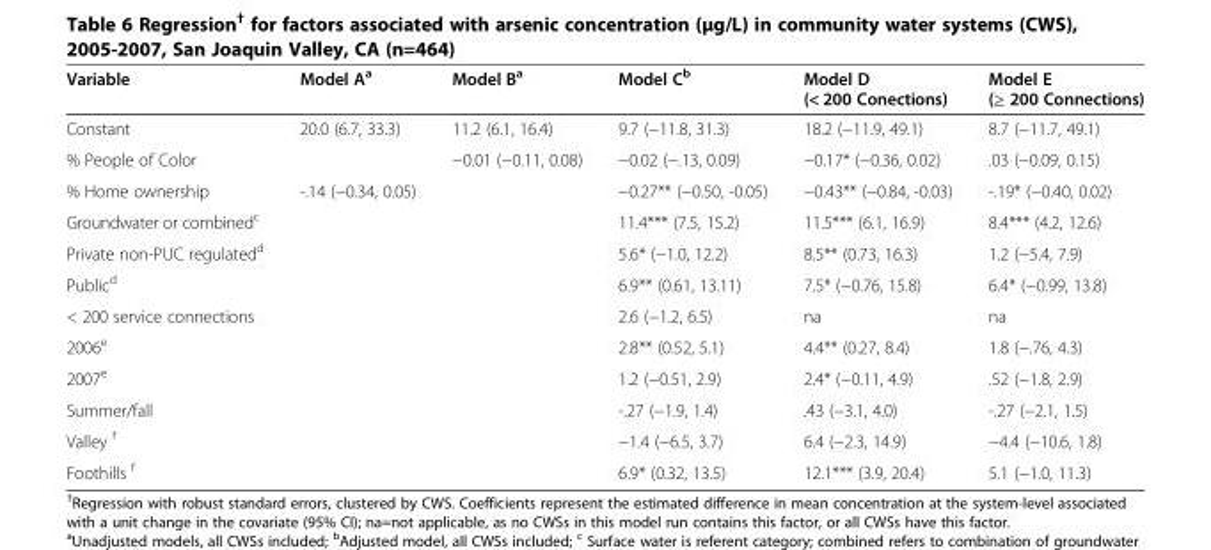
<table><thead><tr><td>Variable</td><td>Model A<sup>a</sup></td><td>Model B<sup>a</sup></td><td>Model C<sup>b</sup></td><td>Model D (&lt; 200 Conections)</td><td>Model E (≥ 200 Connections)</td></tr></thead><tbody><tr><td>Constant</td><td>20.0 (6.7, 33.3)</td><td>11.2 (6.1, 16.4)</td><td>9.7 (−11.8, 31.3)</td><td>18.2 (−11.9, 49.1)</td><td>8.7 (−11.7, 49.1)</td></tr><tr><td>% People of Color</td><td></td><td>−0.01 (−0.11, 0.08)</td><td>−0.02 (−.13, 0.09)</td><td>−0.17* (−0.36, 0.02)</td><td>.03 (−0.09, 0.15)</td></tr><tr><td>% Home ownership</td><td>-.14 (−0.34, 0.05)</td><td></td><td>−0.27** (−0.50, -0.05)</td><td>−0.43** (−0.84, -0.03)</td><td>-.19* (−0.40, 0.02)</td></tr><tr><td>Groundwater or combined<sup>c</sup></td><td></td><td></td><td>11.4*** (7.5, 15.2)</td><td>11.5*** (6.1, 16.9)</td><td>8.4*** (4.2, 12.6)</td></tr><tr><td>Private non-PUC regulated<sup>d</sup></td><td></td><td></td><td>5.6* (−1.0, 12.2)</td><td>8.5** (0.73, 16.3)</td><td>1.2 (−5.4, 7.9)</td></tr><tr><td>Public<sup>d</sup></td><td></td><td></td><td>6.9** (0.61, 13.11)</td><td>7.5* (−0.76, 15.8)</td><td>6.4* (−0.99, 13.8)</td></tr><tr><td>&lt; 200 service connections</td><td></td><td></td><td>2.6 (−1.2, 6.5)</td><td>na</td><td>na</td></tr><tr><td>2006<sup>e</sup></td><td></td><td></td><td>2.8** (0.52, 5.1)</td><td>4.4** (0.27, 8.4)</td><td>1.8 (−.76, 4.3)</td></tr><tr><td>2007<sup>e</sup></td><td></td><td></td><td>1.2 (−0.51, 2.9)</td><td>2.4* (−0.11, 4.9)</td><td>.52 (−1.8, 2.9)</td></tr><tr><td>Summer/fall</td><td></td><td></td><td>-.27 (−1.9, 1.4)</td><td>.43 (−3.1, 4.0)</td><td>-.27 (−2.1, 1.5)</td></tr><tr><td>Valley <sup>f</sup></td><td></td><td></td><td>−1.4 (−6.5, 3.7)</td><td>6.4 (−2.3, 14.9)</td><td>−4.4 (−10.6, 1.8)</td></tr><tr><td>Foothills <sup>f</sup></td><td></td><td></td><td>6.9* (0.32, 13.5)</td><td>12.1*** (3.9, 20.4)</td><td>5.1 (−1.0, 11.3)</td></tr></tbody></table>